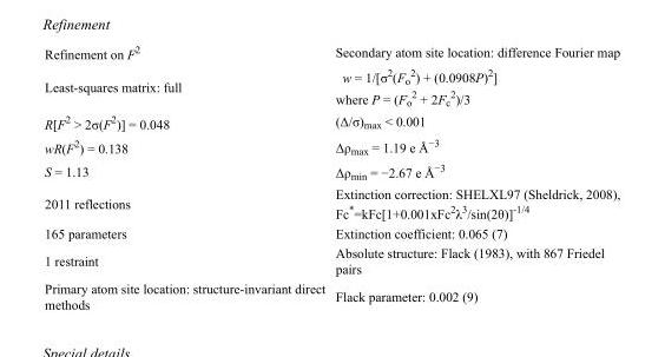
<table><tbody><tr><td>Refinement on F<sup>2</sup></td><td>Secondary atom site location: difference Fourier map</td></tr><tr><td>Least-squares matrix: full</td><td>w = 1/[σ<sup>2</sup>(F<sub>o</sub> <sup>2</sup>) + (0.0908P)<sup>2</sup>] where P = (F<sub>o</sub> <sup>2</sup> + 2F<sub>c</sub> <sup>2</sup>)/3</td></tr><tr><td>R[F<sup>2</sup> &gt; 2σ(F<sup>2</sup>)] = 0.048</td><td>(Δ/σ)<sub>max</sub> &lt; 0.001</td></tr><tr><td>wR(F<sup>2</sup>) = 0.138</td><td>Δρ<sub>max</sub> = 1.19 e Å<sup>−3</sup></td></tr><tr><td>S = 1.13</td><td>Δρ<sub>min</sub> = −2.67 e Å<sup>−3</sup></td></tr><tr><td>2011 reflections</td><td>Extinction correction: SHELXL97 (Sheldrick, 2008), Fc*=kFc[1+0.001xFc<sup>2</sup>λ<sup>3</sup>/sin(2θ)]<sup>-1/4</sup></td></tr><tr><td>165 parameters</td><td>Extinction coefficient: 0.065 (7)</td></tr><tr><td>1 restraint</td><td>Absolute structure: Flack (1983), with 867 Friedel pairs</td></tr><tr><td>Primary atom site location: structure-invariant direct methods</td><td>Flack parameter: 0.002 (9)</td></tr></tbody></table>